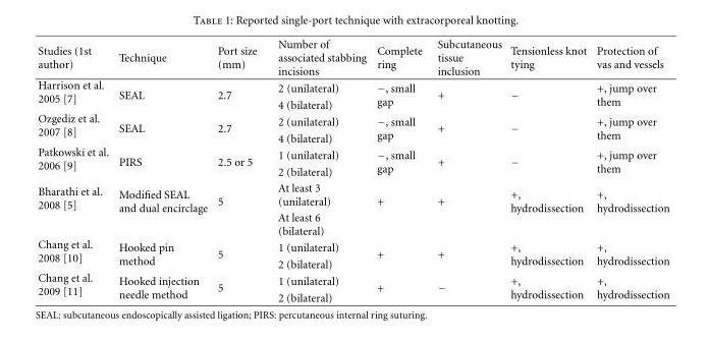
<table><thead><tr><td>Studies (1st author)</td><td>Technique</td><td>Port size (mm)</td><td>Number of associated stabbing incisions</td><td>Complete ring</td><td>Subcutaneous tissue inclusion</td><td>Tensionless knot tying</td><td>Protection of vas and vessels</td></tr></thead><tbody><tr><td rowspan="2">Harrison et al. 2005 [7]</td><td rowspan="2">SEAL</td><td rowspan="2">2.7</td><td>2 (unilateral)</td><td rowspan="2">−, small gap</td><td rowspan="2">+</td><td rowspan="2">−</td><td rowspan="2">+, jump over them</td></tr><tr><td>4 (bilateral)</td></tr><tr><td rowspan="2">Ozgediz et al. 2007 [8]</td><td rowspan="2">SEAL</td><td rowspan="2">2.7</td><td>2 (unilateral)</td><td rowspan="2">−, small gap</td><td rowspan="2">+</td><td rowspan="2">−</td><td rowspan="2">+, jump over them</td></tr><tr><td>4 (bilateral)</td></tr><tr><td rowspan="2">Patkowski et al. 2006 [9]</td><td rowspan="2">PIRS</td><td rowspan="2">2.5 or 5</td><td>1 (unilateral)</td><td rowspan="2">−, small gap</td><td rowspan="2">+</td><td rowspan="2">−</td><td rowspan="2">+, jump over them</td></tr><tr><td>2 (bilateral)</td></tr><tr><td rowspan="2">Bharathi et al. 2008 [5]</td><td rowspan="2">Modified SEAL and dual encirclage</td><td rowspan="2">5</td><td>At least 3 (unilateral)</td><td rowspan="2">+</td><td rowspan="2">+</td><td rowspan="2">+, hydrodissection</td><td rowspan="2">+, hydrodissection</td></tr><tr><td>At least 6 (bilateral)</td></tr><tr><td rowspan="2">Chang et al. 2008 [10]</td><td rowspan="2">Hooked pin method</td><td rowspan="2">5</td><td>1 (unilateral)</td><td rowspan="2">+</td><td rowspan="2">+</td><td rowspan="2">+, hydrodissection</td><td rowspan="2">+, hydrodissection</td></tr><tr><td>2 (bilateral)</td></tr><tr><td rowspan="2">Chang et al. 2009 [11]</td><td rowspan="2">Hooked injection needle method</td><td rowspan="2">5</td><td>1 (unilateral)</td><td rowspan="2">+</td><td rowspan="2">−</td><td rowspan="2">+, hydrodissection</td><td rowspan="2">+, hydrodissection</td></tr><tr><td>2 (bilateral)</td></tr></tbody></table>